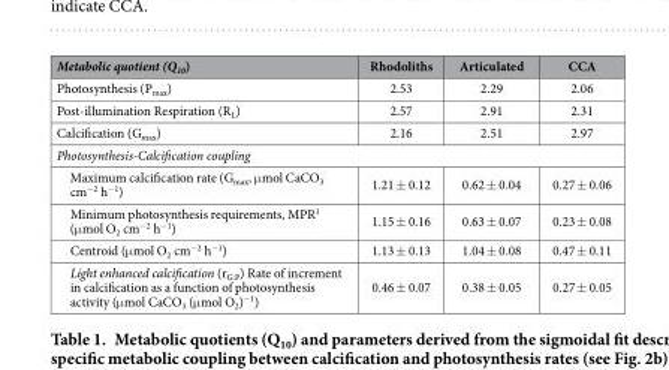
<table><thead><tr><td>Metabolic quotient (Q<sub>10</sub>)</td><td>Rhodoliths</td><td>Articulated</td><td>CCA</td></tr></thead><tbody><tr><td>Photosynthesis (P<sub>max</sub>)</td><td>2.53</td><td>2.29</td><td>2.06</td></tr><tr><td>Post-illumination Respiration (R<sub>L</sub>)</td><td>2.57</td><td>2.91</td><td>2.31</td></tr><tr><td>Calcification (G<sub>max</sub>)</td><td>2.16</td><td>2.51</td><td>2.97</td></tr><tr><td colspan="4">Photosynthesis-Calcification coupling</td></tr><tr><td>Maximum calcification rate (G<sub>max</sub>, μ mol CaCO<sub>3</sub> cm<sup>−2</sup> h<sup>−1</sup>)</td><td>1.21 ± 0.12</td><td>0.62 ± 0.04</td><td>0.27 ± 0.06</td></tr><tr><td>Minimum photosynthesis requirements, MPR<sup>1</sup> (μ mol O<sub>2</sub> cm<sup>−2</sup> h<sup>−1</sup>)</td><td>1.15 ± 0.16</td><td>0.63 ± 0.07</td><td>0.23 ± 0.08</td></tr><tr><td>Centroid (μ mol O<sub>2</sub> cm<sup>−2</sup> h<sup>−1</sup>)</td><td>1.13 ± 0.13</td><td>1.04 ± 0.08</td><td>0.47 ± 0.11</td></tr><tr><td>Light enhanced calcification (r<sub>G:P</sub>) Rate of increment in calcification as a function of photosynthesis activity (μ mol CaCO<sub>3</sub> (μ mol O<sub>2</sub>)<sup>−1</sup>)</td><td>0.46 ± 0.07</td><td>0.38 ± 0.05</td><td>0.27 ± 0.05</td></tr></tbody></table>